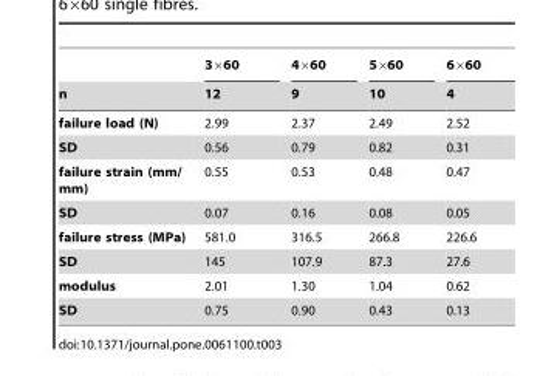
<table><thead><tr><td rowspan="2">n</td><td rowspan="2">3×60 12</td><td rowspan="2">4×60 9</td><td rowspan="2">5×60 10</td><td rowspan="2">6×60 4</td></tr><tr></tr></thead><tbody><tr><td>failure load (N)</td><td>2.99</td><td>2.37</td><td>2.49</td><td>2.52</td></tr><tr><td>SD</td><td>0.56</td><td>0.79</td><td>0.82</td><td>0.31</td></tr><tr><td>failure strain (mm/ mm)</td><td>0.55</td><td>0.53</td><td>0.48</td><td>0.47</td></tr><tr><td>SD</td><td>0.07</td><td>0.16</td><td>0.08</td><td>0.05</td></tr><tr><td>failure stress (MPa)</td><td>581.0</td><td>316.5</td><td>266.8</td><td>226.6</td></tr><tr><td>SD</td><td>145</td><td>107.9</td><td>87.3</td><td>27.6</td></tr><tr><td>modulus</td><td>2.01</td><td>1.30</td><td>1.04</td><td>0.62</td></tr><tr><td>SD</td><td>0.75</td><td>0.90</td><td>0.43</td><td>0.13</td></tr></tbody></table>